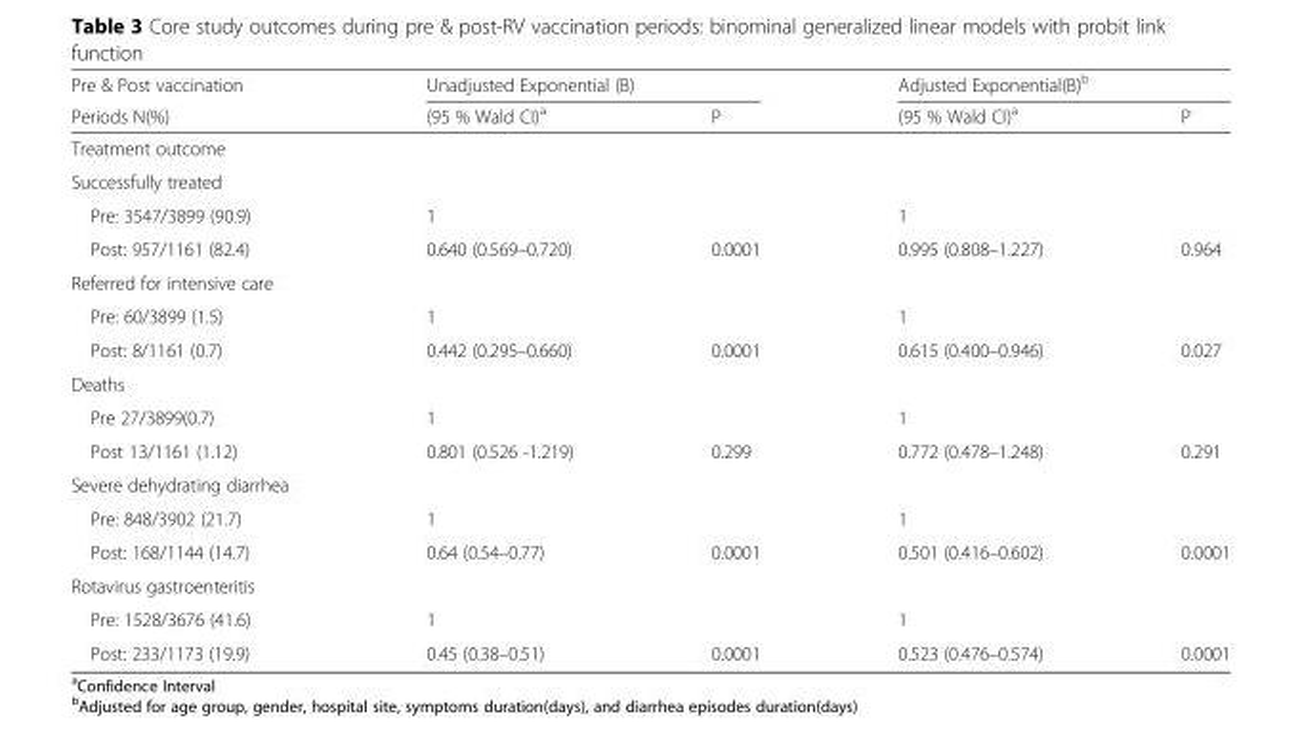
<table><thead><tr><td rowspan="2">Pre &amp; Post vaccination Periods N(%)</td><td colspan="2">Unadjusted Exponential (B)</td><td colspan="2">Adjusted Exponential(B)<sup>b</sup></td></tr><tr><td>(95 % Wald CI)<sup>a</sup></td><td>P</td><td>(95 % Wald CI)<sup>a</sup></td><td>P</td></tr></thead><tbody><tr><td colspan="5">Treatment outcome</td></tr><tr><td colspan="5">Successfully treated</td></tr><tr><td>Pre: 3547/3899 (90.9)</td><td>1</td><td></td><td>1</td><td></td></tr><tr><td>Post: 957/1161 (82.4)</td><td>0.640 (0.569–0.720)</td><td>0.0001</td><td>0.995 (0.808–1.227)</td><td>0.964</td></tr><tr><td colspan="5">Referred for intensive care</td></tr><tr><td>Pre: 60/3899 (1.5)</td><td>1</td><td></td><td>1</td><td></td></tr><tr><td>Post: 8/1161 (0.7)</td><td>0.442 (0.295–0.660)</td><td>0.0001</td><td>0.615 (0.400–0.946)</td><td>0.027</td></tr><tr><td colspan="5">Deaths</td></tr><tr><td>Pre 27/3899(0.7)</td><td>1</td><td></td><td>1</td><td></td></tr><tr><td>Post 13/1161 (1.12)</td><td>0.801 (0.526 -1.219)</td><td>0.299</td><td>0.772 (0.478–1.248)</td><td>0.291</td></tr><tr><td colspan="5">Severe dehydrating diarrhea</td></tr><tr><td>Pre: 848/3902 (21.7)</td><td>1</td><td></td><td>1</td><td></td></tr><tr><td>Post: 168/1144 (14.7)</td><td>0.64 (0.54–0.77)</td><td>0.0001</td><td>0.501 (0.416–0.602)</td><td>0.0001</td></tr><tr><td colspan="5">Rotavirus gastroenteritis</td></tr><tr><td>Pre: 1528/3676 (41.6)</td><td>1</td><td></td><td>1</td><td></td></tr><tr><td>Post: 233/1173 (19.9)</td><td>0.45 (0.38–0.51)</td><td>0.0001</td><td>0.523 (0.476–0.574)</td><td>0.0001</td></tr></tbody></table>